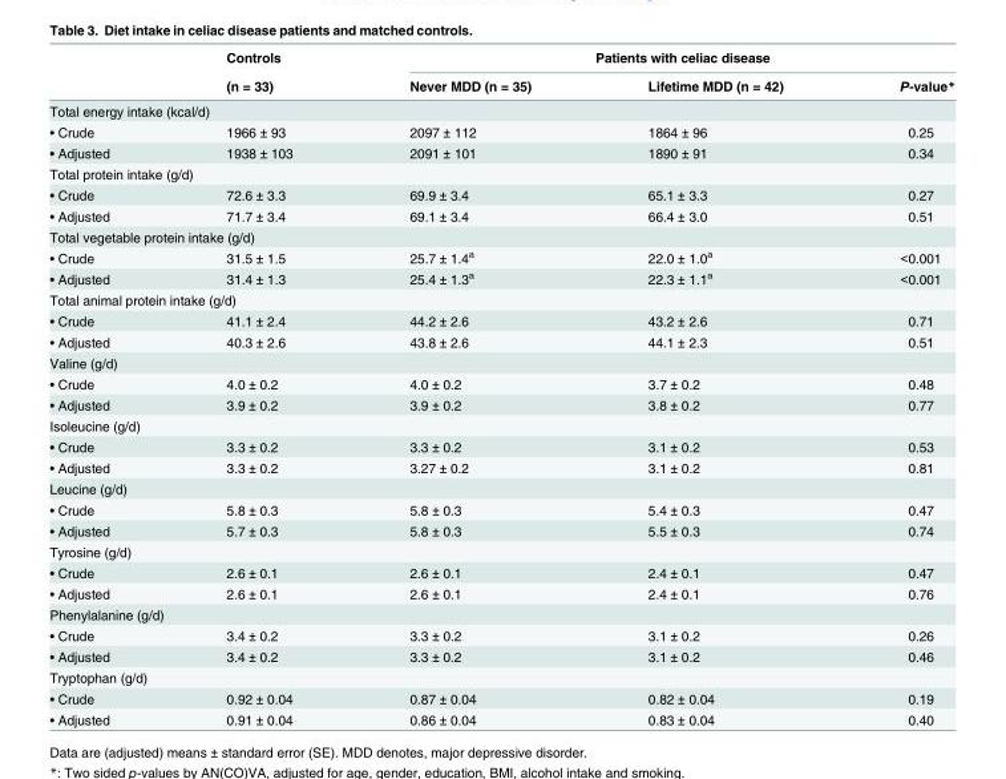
<table><thead><tr><td rowspan="2"></td><td rowspan="2">Controls (n = 33)</td><td colspan="3">Patients with celiac disease</td></tr><tr><td>Never MDD (n = 35)</td><td>Lifetime MDD (n = 42)</td><td>P-value*</td></tr></thead><tbody><tr><td colspan="5">Total energy intake (kcal/d)</td></tr><tr><td>• Crude</td><td>1966 ± 93</td><td>2097 ± 112</td><td>1864 ± 96</td><td>0.25</td></tr><tr><td>• Adjusted</td><td>1938 ± 103</td><td>2091 ± 101</td><td>1890 ± 91</td><td>0.34</td></tr><tr><td colspan="5">Total protein intake (g/d)</td></tr><tr><td>• Crude</td><td>72.6 ± 3.3</td><td>69.9 ± 3.4</td><td>65.1 ± 3.3</td><td>0.27</td></tr><tr><td>• Adjusted</td><td>71.7 ± 3.4</td><td>69.1 ± 3.4</td><td>66.4 ± 3.0</td><td>0.51</td></tr><tr><td colspan="5">Total vegetable protein intake (g/d)</td></tr><tr><td>• Crude</td><td>31.5 ± 1.5</td><td>25.7 ± 1.4<sup>a</sup></td><td>22.0 ± 1.0<sup>a</sup></td><td>&lt;0.001</td></tr><tr><td>• Adjusted</td><td>31.4 ± 1.3</td><td>25.4 ± 1.3<sup>a</sup></td><td>22.3 ± 1.1<sup>a</sup></td><td>&lt;0.001</td></tr><tr><td colspan="5">Total animal protein intake (g/d)</td></tr><tr><td>• Crude</td><td>41.1 ± 2.4</td><td>44.2 ± 2.6</td><td>43.2 ± 2.6</td><td>0.71</td></tr><tr><td>• Adjusted</td><td>40.3 ± 2.6</td><td>43.8 ± 2.6</td><td>44.1 ± 2.3</td><td>0.51</td></tr><tr><td colspan="5">Valine (g/d)</td></tr><tr><td>• Crude</td><td>4.0 ± 0.2</td><td>4.0 ± 0.2</td><td>3.7 ± 0.2</td><td>0.48</td></tr><tr><td>• Adjusted</td><td>3.9 ± 0.2</td><td>3.9 ± 0.2</td><td>3.8 ± 0.2</td><td>0.77</td></tr><tr><td colspan="5">Isoleucine (g/d)</td></tr><tr><td>• Crude</td><td>3.3 ± 0.2</td><td>3.3 ± 0.2</td><td>3.1 ± 0.2</td><td>0.53</td></tr><tr><td>• Adjusted</td><td>3.3 ± 0.2</td><td>3.27 ± 0.2</td><td>3.1 ± 0.2</td><td>0.81</td></tr><tr><td colspan="5">Leucine (g/d)</td></tr><tr><td>• Crude</td><td>5.8 ± 0.3</td><td>5.8 ± 0.3</td><td>5.4 ± 0.3</td><td>0.47</td></tr><tr><td>• Adjusted</td><td>5.7 ± 0.3</td><td>5.8 ± 0.3</td><td>5.5 ± 0.3</td><td>0.74</td></tr><tr><td colspan="5">Tyrosine (g/d)</td></tr><tr><td>• Crude</td><td>2.6 ± 0.1</td><td>2.6 ± 0.1</td><td>2.4 ± 0.1</td><td>0.47</td></tr><tr><td>• Adjusted</td><td>2.6 ± 0.1</td><td>2.6 ± 0.1</td><td>2.4 ± 0.1</td><td>0.76</td></tr><tr><td colspan="5">Phenylalanine (g/d)</td></tr><tr><td>• Crude</td><td>3.4 ± 0.2</td><td>3.3 ± 0.2</td><td>3.1 ± 0.2</td><td>0.26</td></tr><tr><td>• Adjusted</td><td>3.4 ± 0.2</td><td>3.3 ± 0.2</td><td>3.1 ± 0.2</td><td>0.46</td></tr><tr><td colspan="5">Tryptophan (g/d)</td></tr><tr><td>• Crude</td><td>0.92 ± 0.04</td><td>0.87 ± 0.04</td><td>0.82 ± 0.04</td><td>0.19</td></tr><tr><td>• Adjusted</td><td>0.91 ± 0.04</td><td>0.86 ± 0.04</td><td>0.83 ± 0.04</td><td>0.40</td></tr></tbody></table>